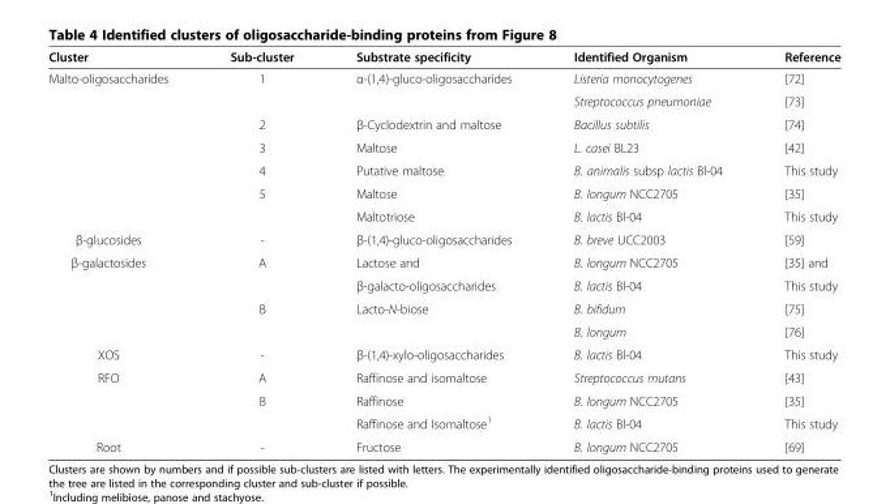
<table><thead><tr><td>Cluster</td><td>Sub-cluster</td><td>Substrate specificity</td><td>Identified Organism</td><td>Reference</td></tr></thead><tbody><tr><td rowspan="7">Malto-oligosaccharides</td><td rowspan="2">1</td><td rowspan="2">α-(1,4)-gluco-oligosaccharides</td><td>Listeria monocytogenes</td><td>[72]</td></tr><tr><td>Streptococcus pneumoniae</td><td>[73]</td></tr><tr><td>2</td><td>β-Cyclodextrin and maltose</td><td>Bacillus subtilis</td><td>[74]</td></tr><tr><td>3</td><td>Maltose</td><td>L. casei BL23</td><td>[42]</td></tr><tr><td>4</td><td>Putative maltose</td><td>B. animalis subsp lactis Bl-04</td><td>This study</td></tr><tr><td rowspan="2">5</td><td>Maltose</td><td>B. longum NCC2705</td><td>[35]</td></tr><tr><td>Maltotriose</td><td>B. lactis Bl-04</td><td>This study</td></tr><tr><td>β-glucosides</td><td>-</td><td>β-(1,4)-gluco-oligosaccharides</td><td>B. breve UCC2003</td><td>[59]</td></tr><tr><td rowspan="4">β-galactosides</td><td rowspan="2">A</td><td>Lactose and</td><td>B. longum NCC2705</td><td>[35] and</td></tr><tr><td>β-galacto-oligosaccharides</td><td>B. lactis Bl-04</td><td>This study</td></tr><tr><td rowspan="2">B</td><td>Lacto-N-biose</td><td>B. bifidum</td><td>[75]</td></tr><tr><td></td><td>B. longum</td><td>[76]</td></tr><tr><td>XOS</td><td>-</td><td>β-(1,4)-xylo-oligosaccharides</td><td>B. lactis Bl-04</td><td>This study</td></tr><tr><td rowspan="3">RFO</td><td>A</td><td>Raffinose and isomaltose</td><td>Streptococcus mutans</td><td>[43]</td></tr><tr><td rowspan="2">B</td><td>Raffinose</td><td>B. longum NCC2705</td><td>[35]</td></tr><tr><td>Raffinose and Isomaltose<sup>1</sup></td><td>B. lactis Bl-04</td><td>This study</td></tr><tr><td>Root</td><td>-</td><td>Fructose</td><td>B. longum NCC2705</td><td>[69]</td></tr></tbody></table>